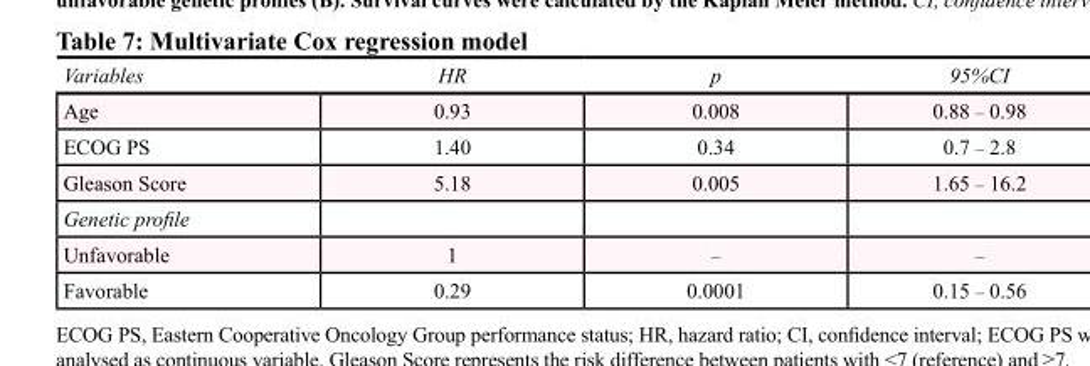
<table><thead><tr><td>Variables</td><td>HR</td><td>p</td><td>95%CI</td></tr></thead><tbody><tr><td>Age</td><td>0.93</td><td>0.008</td><td>0.88 – 0.98</td></tr><tr><td>ECOG PS</td><td>1.40</td><td>0.34</td><td>0.7 – 2.8</td></tr><tr><td>Gleason Score</td><td>5.18</td><td>0.005</td><td>1.65 – 16.2</td></tr><tr><td colspan="4">Genetic profile</td></tr><tr><td>Unfavorable</td><td>1</td><td>–</td><td>–</td></tr><tr><td>Favorable</td><td>0.29</td><td>0.0001</td><td>0.15 – 0.56</td></tr></tbody></table>